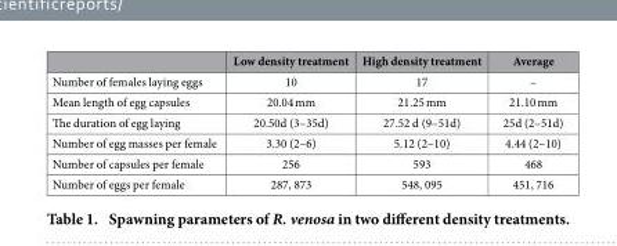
<table><thead><tr><td></td><td>Low density treatment</td><td>High density treatment</td><td>Average</td></tr></thead><tbody><tr><td>Number of females laying eggs</td><td>10</td><td>17</td><td>–</td></tr><tr><td>Mean length of egg capsules</td><td>20.04 mm</td><td>21.25 mm</td><td>21.10 mm</td></tr><tr><td>The duration of egg laying</td><td>20.50d (3–35d)</td><td>27.52 d (9–51d)</td><td>25d (2–51d)</td></tr><tr><td>Number of egg masses per female</td><td>3.30 (2–6)</td><td>5.12 (2–10)</td><td>4.44 (2–10)</td></tr><tr><td>Number of capsules per female</td><td>256</td><td>593</td><td>468</td></tr><tr><td>Number of eggs per female</td><td>287, 873</td><td>548, 095</td><td>451, 716</td></tr></tbody></table>